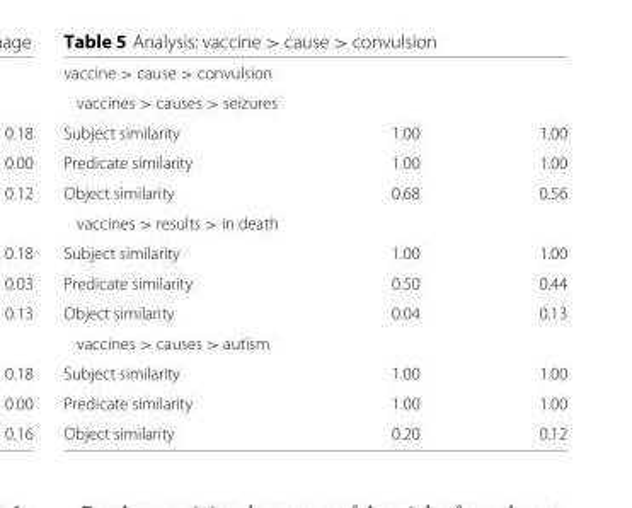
<table><tbody><tr><td colspan="3">vaccine &gt; cause &gt; convulsion</td></tr><tr><td colspan="3">vaccines &gt; causes &gt; seizures</td></tr><tr><td>Subject similarity</td><td>1.00</td><td>1.00</td></tr><tr><td>Predicate similarity</td><td>1.00</td><td>1.00</td></tr><tr><td>Object similarity</td><td>0.68</td><td>0.56</td></tr><tr><td colspan="3">vaccines &gt; results &gt; in death</td></tr><tr><td>Subject similarity</td><td>1.00</td><td>1.00</td></tr><tr><td>Predicate similarity</td><td>0.50</td><td>0.44</td></tr><tr><td>Object similarity</td><td>0.04</td><td>0.13</td></tr><tr><td colspan="3">vaccines &gt; causes &gt; autism</td></tr><tr><td>Subject similarity</td><td>1.00</td><td>1.00</td></tr><tr><td>Predicate similarity</td><td>1.00</td><td>1.00</td></tr><tr><td>Object similarity</td><td>0.20</td><td>0.12</td></tr></tbody></table>